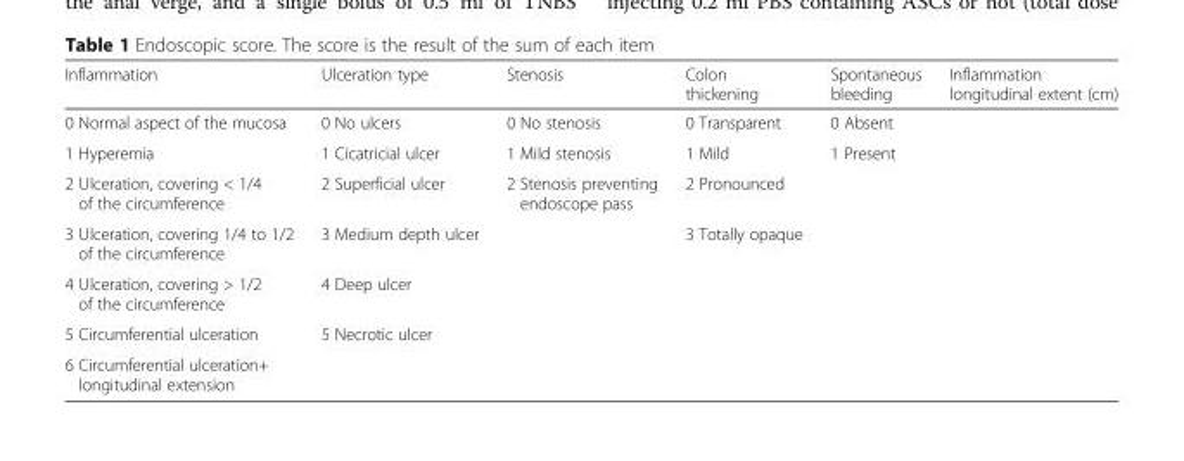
<table><thead><tr><td>Inflammation</td><td>Ulceration type</td><td>Stenosis</td><td>Colon thickening</td><td>Spontaneous bleeding</td><td>Inflammation longitudinal extent (cm)</td></tr></thead><tbody><tr><td>0 Normal aspect of the mucosa</td><td>0 No ulcers</td><td>0 No stenosis</td><td>0 Transparent</td><td>0 Absent</td><td></td></tr><tr><td>1 Hyperemia</td><td>1 Cicatricial ulcer</td><td>1 Mild stenosis</td><td>1 Mild</td><td>1 Present</td><td></td></tr><tr><td>2 Ulceration, covering &lt; 1/4 of the circumference</td><td>2 Superficial ulcer</td><td>2 Stenosis preventing endoscope pass</td><td>2 Pronounced</td><td></td><td></td></tr><tr><td>3 Ulceration, covering 1/4 to 1/2 of the circumference</td><td>3 Medium depth ulcer</td><td></td><td>3 Totally opaque</td><td></td><td></td></tr><tr><td>4 Ulceration, covering &gt; 1/2 of the circumference</td><td>4 Deep ulcer</td><td></td><td></td><td></td><td></td></tr><tr><td>5 Circumferential ulceration</td><td>5 Necrotic ulcer</td><td></td><td></td><td></td><td></td></tr><tr><td>6 Circumferential ulceration+ longitudinal extension</td><td></td><td></td><td></td><td></td><td></td></tr></tbody></table>